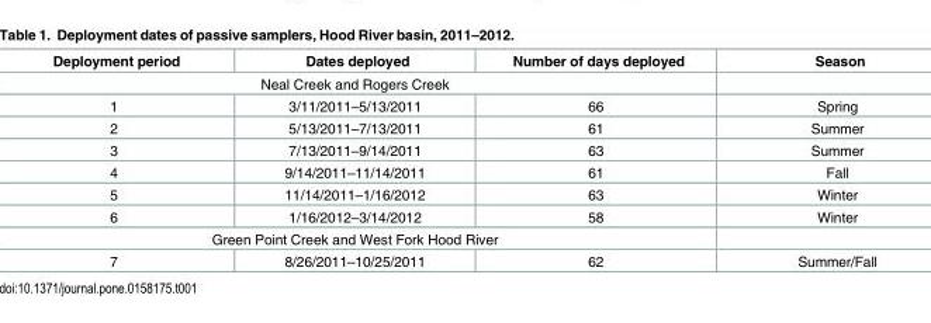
<table><thead><tr><td>Deployment period</td><td>Dates deployed</td><td>Number of days deployed</td><td>Season</td></tr></thead><tbody><tr><td colspan="4">Neal Creek and Rogers Creek</td></tr><tr><td>1</td><td>3/11/2011–5/13/2011</td><td>66</td><td>Spring</td></tr><tr><td>2</td><td>5/13/2011–7/13/2011</td><td>61</td><td>Summer</td></tr><tr><td>3</td><td>7/13/2011–9/14/2011</td><td>63</td><td>Summer</td></tr><tr><td>4</td><td>9/14/2011–11/14/2011</td><td>61</td><td>Fall</td></tr><tr><td>5</td><td>11/14/2011–1/16/2012</td><td>63</td><td>Winter</td></tr><tr><td>6</td><td>1/16/2012–3/14/2012</td><td>58</td><td>Winter</td></tr><tr><td colspan="4">Green Point Creek and West Fork Hood River</td></tr><tr><td>7</td><td>8/26/2011–10/25/2011</td><td>62</td><td>Summer/Fall</td></tr></tbody></table>